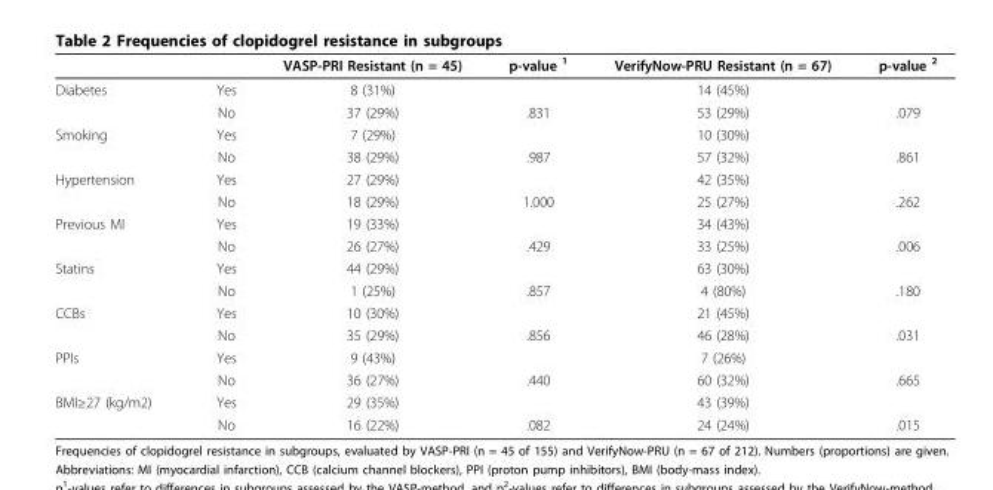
<table><thead><tr><td></td><td></td><td>VASP-PRI Resistant (n = 45)</td><td>p-value <sup>1</sup></td><td>VerifyNow-PRU Resistant (n = 67)</td><td>p-value <sup>2</sup></td></tr></thead><tbody><tr><td rowspan="2">Diabetes</td><td>Yes</td><td>8 (31%)</td><td></td><td>14 (45%)</td><td></td></tr><tr><td>No</td><td>37 (29%)</td><td>.831</td><td>53 (29%)</td><td>.079</td></tr><tr><td rowspan="2">Smoking</td><td>Yes</td><td>7 (29%)</td><td></td><td>10 (30%)</td><td></td></tr><tr><td>No</td><td>38 (29%)</td><td>.987</td><td>57 (32%)</td><td>.861</td></tr><tr><td rowspan="2">Hypertension</td><td>Yes</td><td>27 (29%)</td><td></td><td>42 (35%)</td><td></td></tr><tr><td>No</td><td>18 (29%)</td><td>1.000</td><td>25 (27%)</td><td>.262</td></tr><tr><td rowspan="2">Previous MI</td><td>Yes</td><td>19 (33%)</td><td></td><td>34 (43%)</td><td></td></tr><tr><td>No</td><td>26 (27%)</td><td>.429</td><td>33 (25%)</td><td>.006</td></tr><tr><td rowspan="2">Statins</td><td>Yes</td><td>44 (29%)</td><td></td><td>63 (30%)</td><td></td></tr><tr><td>No</td><td>1 (25%)</td><td>.857</td><td>4 (80%)</td><td>.180</td></tr><tr><td rowspan="2">CCBs</td><td>Yes</td><td>10 (30%)</td><td></td><td>21 (45%)</td><td></td></tr><tr><td>No</td><td>35 (29%)</td><td>.856</td><td>46 (28%)</td><td>.031</td></tr><tr><td rowspan="2">PPIs</td><td>Yes</td><td>9 (43%)</td><td></td><td>7 (26%)</td><td></td></tr><tr><td>No</td><td>36 (27%)</td><td>.440</td><td>60 (32%)</td><td>.665</td></tr><tr><td rowspan="2">BMI≥27 (kg/m2)</td><td>Yes</td><td>29 (35%)</td><td></td><td>43 (39%)</td><td></td></tr><tr><td>No</td><td>16 (22%)</td><td>.082</td><td>24 (24%)</td><td>.015</td></tr></tbody></table>